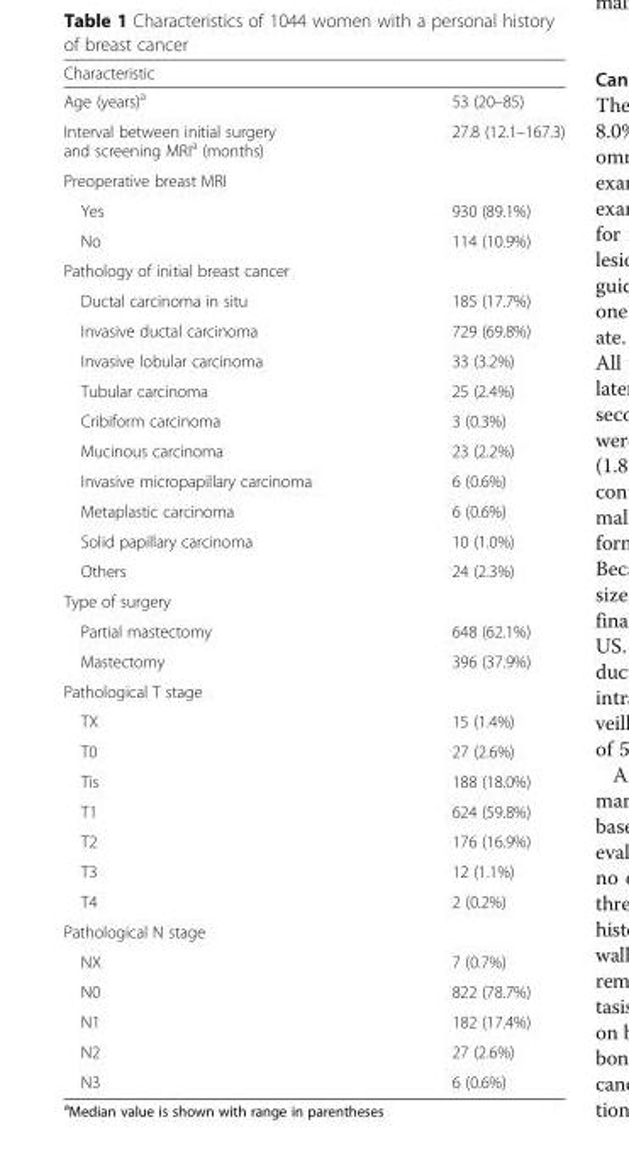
<table><thead><tr><td>Characteristic</td><td></td></tr></thead><tbody><tr><td>Age (years)<sup>a</sup></td><td>53 (20–85)</td></tr><tr><td>Interval between initial surgery and screening MRI<sup>a</sup> (months)</td><td>27.8 (12.1–167.3)</td></tr><tr><td colspan="2">Preoperative breast MRI</td></tr><tr><td>Yes</td><td>930 (89.1%)</td></tr><tr><td>No</td><td>114 (10.9%)</td></tr><tr><td colspan="2">Pathology of initial breast cancer</td></tr><tr><td>Ductal carcinoma in situ</td><td>185 (17.7%)</td></tr><tr><td>Invasive ductal carcinoma</td><td>729 (69.8%)</td></tr><tr><td>Invasive lobular carcinoma</td><td>33 (3.2%)</td></tr><tr><td>Tubular carcinoma</td><td>25 (2.4%)</td></tr><tr><td>Cribiform carcinoma</td><td>3 (0.3%)</td></tr><tr><td>Mucinous carcinoma</td><td>23 (2.2%)</td></tr><tr><td>Invasive micropapillary carcinoma</td><td>6 (0.6%)</td></tr><tr><td>Metaplastic carcinoma</td><td>6 (0.6%)</td></tr><tr><td>Solid papillary carcinoma</td><td>10 (1.0%)</td></tr><tr><td>Others</td><td>24 (2.3%)</td></tr><tr><td colspan="2">Type of surgery</td></tr><tr><td>Partial mastectomy</td><td>648 (62.1%)</td></tr><tr><td>Mastectomy</td><td>396 (37.9%)</td></tr><tr><td colspan="2">Pathological T stage</td></tr><tr><td>TX</td><td>15 (1.4%)</td></tr><tr><td>T0</td><td>27 (2.6%)</td></tr><tr><td>Tis</td><td>188 (18.0%)</td></tr><tr><td>T1</td><td>624 (59.8%)</td></tr><tr><td>T2</td><td>176 (16.9%)</td></tr><tr><td>T3</td><td>12 (1.1%)</td></tr><tr><td>T4</td><td>2 (0.2%)</td></tr><tr><td colspan="2">Pathological N stage</td></tr><tr><td>NX</td><td>7 (0.7%)</td></tr><tr><td>N0</td><td>822 (78.7%)</td></tr><tr><td>N1</td><td>182 (17.4%)</td></tr><tr><td>N2</td><td>27 (2.6%)</td></tr><tr><td>N3</td><td>6 (0.6%)</td></tr></tbody></table>